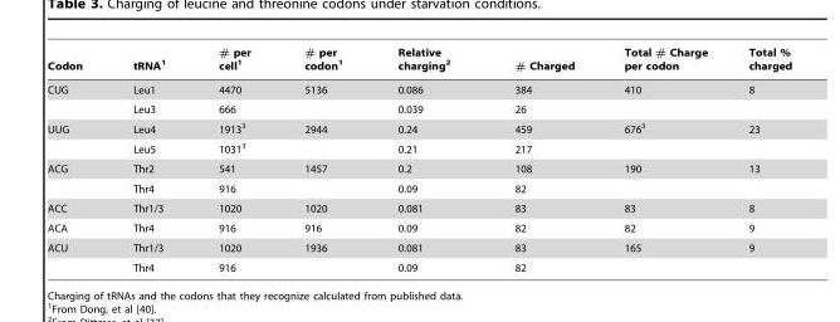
<table><thead><tr><td>Codon</td><td>tRNA<sup>1</sup></td><td># per cell<sup>1</sup></td><td># per codon<sup>1</sup></td><td>Relative charging<sup>2</sup></td><td># Charged</td><td>Total # Charge per codon</td><td>Total % charged</td></tr></thead><tbody><tr><td rowspan="2">CUG</td><td>Leu1</td><td>4470</td><td>5136</td><td>0.086</td><td>384</td><td>410</td><td>8</td></tr><tr><td>Leu3</td><td>666</td><td></td><td>0.039</td><td>26</td><td></td><td></td></tr><tr><td rowspan="2">UUG</td><td>Leu4</td><td>1913<sup>3</sup></td><td>2944</td><td>0.24</td><td>459</td><td>676<sup>3</sup></td><td>23</td></tr><tr><td>Leu5</td><td>1031<sup>3</sup></td><td></td><td>0.21</td><td>217</td><td></td><td></td></tr><tr><td rowspan="2">ACG</td><td>Thr2</td><td>541</td><td>1457</td><td>0.2</td><td>108</td><td>190</td><td>13</td></tr><tr><td>Thr4</td><td>916</td><td></td><td>0.09</td><td>82</td><td></td><td></td></tr><tr><td>ACC</td><td>Thr1/3</td><td>1020</td><td>1020</td><td>0.081</td><td>83</td><td>83</td><td>8</td></tr><tr><td>ACA</td><td>Thr4</td><td>916</td><td>916</td><td>0.09</td><td>82</td><td>82</td><td>9</td></tr><tr><td rowspan="2">ACU</td><td>Thr1/3</td><td>1020</td><td>1936</td><td>0.081</td><td>83</td><td>165</td><td>9</td></tr><tr><td>Thr4</td><td>916</td><td></td><td>0.09</td><td>82</td><td></td><td></td></tr></tbody></table>